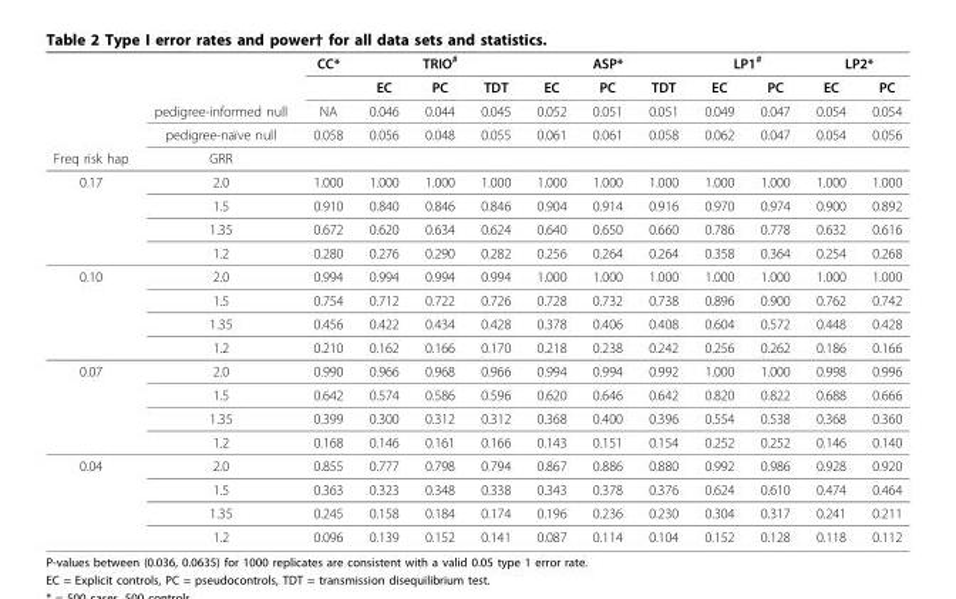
<table><thead><tr><td rowspan="5">Freq risk hap</td><td rowspan="5">pedigree-informed null pedigree-naïve null GRR</td><td rowspan="5">CC* NA 0.058</td><td colspan="3">TRIO<sup>#</sup></td><td colspan="3">ASP*</td><td colspan="2">LP1<sup>#</sup></td><td colspan="2">LP2*</td></tr><tr><td rowspan="4">EC 0.046 0.056</td><td rowspan="4">PC 0.044 0.048</td><td rowspan="4">TDT 0.045 0.055</td><td rowspan="4">EC 0.052 0.061</td><td rowspan="4">PC 0.051 0.061</td><td rowspan="4">TDT 0.051 0.058</td><td rowspan="4">EC 0.049 0.062</td><td rowspan="4">PC 0.047 0.047</td><td rowspan="4">EC 0.054 0.054</td><td rowspan="4">PC 0.054 0.056</td></tr><tr></tr><tr></tr><tr></tr></thead><tbody><tr><td rowspan="4">0.17</td><td>2.0</td><td>1.000</td><td>1.000</td><td>1.000</td><td>1.000</td><td>1.000</td><td>1.000</td><td>1.000</td><td>1.000</td><td>1.000</td><td>1.000</td><td>1.000</td></tr><tr><td>1.5</td><td>0.910</td><td>0.840</td><td>0.846</td><td>0.846</td><td>0.904</td><td>0.914</td><td>0.916</td><td>0.970</td><td>0.974</td><td>0.900</td><td>0.892</td></tr><tr><td>1.35</td><td>0.672</td><td>0.620</td><td>0.634</td><td>0.624</td><td>0.640</td><td>0.650</td><td>0.660</td><td>0.786</td><td>0.778</td><td>0.632</td><td>0.616</td></tr><tr><td>1.2</td><td>0.280</td><td>0.276</td><td>0.290</td><td>0.282</td><td>0.256</td><td>0.264</td><td>0.264</td><td>0.358</td><td>0.364</td><td>0.254</td><td>0.268</td></tr><tr><td rowspan="4">0.10</td><td>2.0</td><td>0.994</td><td>0.994</td><td>0.994</td><td>0.994</td><td>1.000</td><td>1.000</td><td>1.000</td><td>1.000</td><td>1.000</td><td>1.000</td><td>1.000</td></tr><tr><td>1.5</td><td>0.754</td><td>0.712</td><td>0.722</td><td>0.726</td><td>0.728</td><td>0.732</td><td>0.738</td><td>0.896</td><td>0.900</td><td>0.762</td><td>0.742</td></tr><tr><td>1.35</td><td>0.456</td><td>0.422</td><td>0.434</td><td>0.428</td><td>0.378</td><td>0.406</td><td>0.408</td><td>0.604</td><td>0.572</td><td>0.448</td><td>0.428</td></tr><tr><td>1.2</td><td>0.210</td><td>0.162</td><td>0.166</td><td>0.170</td><td>0.218</td><td>0.238</td><td>0.242</td><td>0.256</td><td>0.262</td><td>0.186</td><td>0.166</td></tr><tr><td rowspan="4">0.07</td><td>2.0</td><td>0.990</td><td>0.966</td><td>0.968</td><td>0.966</td><td>0.994</td><td>0.994</td><td>0.992</td><td>1.000</td><td>1.000</td><td>0.998</td><td>0.996</td></tr><tr><td>1.5</td><td>0.642</td><td>0.574</td><td>0.586</td><td>0.596</td><td>0.620</td><td>0.646</td><td>0.642</td><td>0.820</td><td>0.822</td><td>0.688</td><td>0.666</td></tr><tr><td>1.35</td><td>0.399</td><td>0.300</td><td>0.312</td><td>0.312</td><td>0.368</td><td>0.400</td><td>0.396</td><td>0.554</td><td>0.538</td><td>0.368</td><td>0.360</td></tr><tr><td>1.2</td><td>0.168</td><td>0.146</td><td>0.161</td><td>0.166</td><td>0.143</td><td>0.151</td><td>0.154</td><td>0.252</td><td>0.252</td><td>0.146</td><td>0.140</td></tr><tr><td rowspan="4">0.04</td><td>2.0</td><td>0.855</td><td>0.777</td><td>0.798</td><td>0.794</td><td>0.867</td><td>0.886</td><td>0.880</td><td>0.992</td><td>0.986</td><td>0.928</td><td>0.920</td></tr><tr><td>1.5</td><td>0.363</td><td>0.323</td><td>0.348</td><td>0.338</td><td>0.343</td><td>0.378</td><td>0.376</td><td>0.624</td><td>0.610</td><td>0.474</td><td>0.464</td></tr><tr><td>1.35</td><td>0.245</td><td>0.158</td><td>0.184</td><td>0.174</td><td>0.196</td><td>0.236</td><td>0.230</td><td>0.304</td><td>0.317</td><td>0.241</td><td>0.211</td></tr><tr><td>1.2</td><td>0.096</td><td>0.139</td><td>0.152</td><td>0.141</td><td>0.087</td><td>0.114</td><td>0.104</td><td>0.152</td><td>0.128</td><td>0.118</td><td>0.112</td></tr></tbody></table>